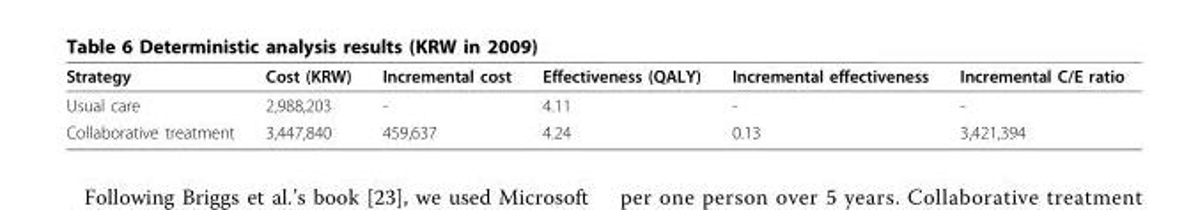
<table><thead><tr><td>Strategy</td><td>Cost (KRW)</td><td>Incremental cost</td><td>Effectiveness (QALY)</td><td>Incremental effectiveness</td><td>Incremental C/E ratio</td></tr></thead><tbody><tr><td>Usual care</td><td>2,988,203</td><td>-</td><td>4.11</td><td>-</td><td>-</td></tr><tr><td>Collaborative treatment</td><td>3,447,840</td><td>459,637</td><td>4.24</td><td>0.13</td><td>3,421,394</td></tr></tbody></table>